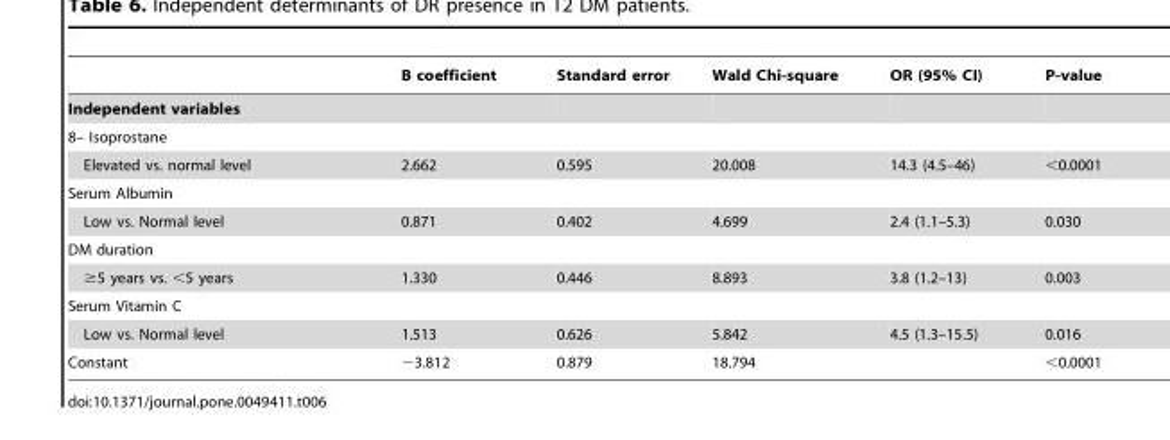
<table><thead><tr><td></td><td>B coefficient</td><td>Standard error</td><td>Wald Chi-square</td><td>OR (95% CI)</td><td>P-value</td></tr></thead><tbody><tr><td colspan="6">Independent variables</td></tr><tr><td colspan="6">8– Isoprostane</td></tr><tr><td>Elevated vs. normal level</td><td>2.662</td><td>0.595</td><td>20.008</td><td>14.3 (4.5–46)</td><td>&lt;0.0001</td></tr><tr><td colspan="6">Serum Albumin</td></tr><tr><td>Low vs. Normal level</td><td>0.871</td><td>0.402</td><td>4.699</td><td>2.4 (1.1–5.3)</td><td>0.030</td></tr><tr><td colspan="6">DM duration</td></tr><tr><td>≥5 years vs. &lt;5 years</td><td>1.330</td><td>0.446</td><td>8.893</td><td>3.8 (1.2–13)</td><td>0.003</td></tr><tr><td colspan="6">Serum Vitamin C</td></tr><tr><td>Low vs. Normal level</td><td>1.513</td><td>0.626</td><td>5.842</td><td>4.5 (1.3–15.5)</td><td>0.016</td></tr><tr><td>Constant</td><td>−3.812</td><td>0.879</td><td>18.794</td><td></td><td>&lt;0.0001</td></tr></tbody></table>